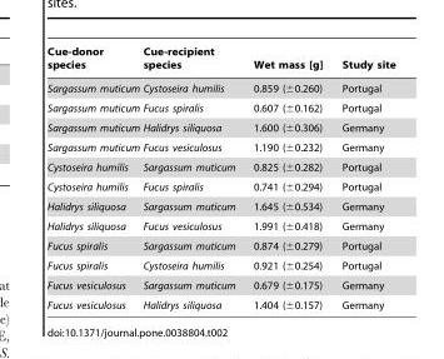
<table><thead><tr><td>Cue-donor species</td><td>Cue-recipient species</td><td>Wet mass [g]</td><td>Study site</td></tr></thead><tbody><tr><td>Sargassum muticum</td><td>Cystoseira humilis</td><td>0.859 (±0.260)</td><td>Portugal</td></tr><tr><td>Sargassum muticum</td><td>Fucus spiralis</td><td>0.607 (±0.162)</td><td>Portugal</td></tr><tr><td>Sargassum muticum</td><td>Halidrys siliquosa</td><td>1.600 (±0.306)</td><td>Germany</td></tr><tr><td>Sargassum muticum</td><td>Fucus vesiculosus</td><td>1.190 (±0.232)</td><td>Germany</td></tr><tr><td>Cystoseira humilis</td><td>Sargassum muticum</td><td>0.825 (±0.282)</td><td>Portugal</td></tr><tr><td>Cystoseira humilis</td><td>Fucus spiralis</td><td>0.741 (±0.294)</td><td>Portugal</td></tr><tr><td>Halidrys siliquosa</td><td>Sargassum muticum</td><td>1.645 (±0.534)</td><td>Germany</td></tr><tr><td>Halidrys siliquosa</td><td>Fucus vesiculosus</td><td>1.991 (±0.418)</td><td>Germany</td></tr><tr><td>Fucus spiralis</td><td>Sargassum muticum</td><td>0.874 (±0.279)</td><td>Portugal</td></tr><tr><td>Fucus spiralis</td><td>Cystoseira humilis</td><td>0.921 (±0.254)</td><td>Portugal</td></tr><tr><td>Fucus vesiculosus</td><td>Sargassum muticum</td><td>0.679 (±0.175)</td><td>Germany</td></tr><tr><td>Fucus vesiculosus</td><td>Halidrys siliquosa</td><td>1.404 (±0.157)</td><td>Germany</td></tr></tbody></table>